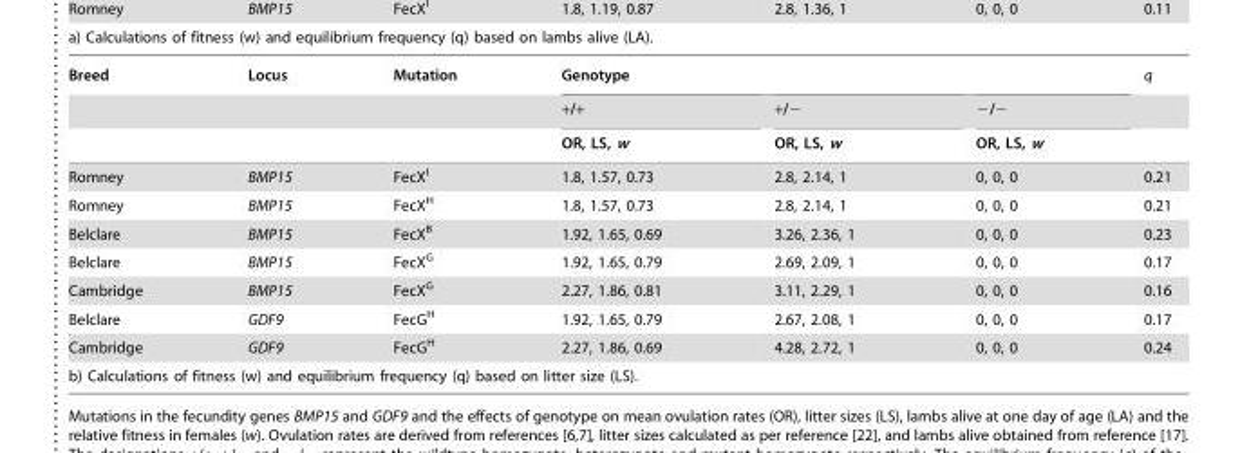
<table><thead><tr><td rowspan="3">Breed</td><td rowspan="3">Locus</td><td rowspan="3">Mutation</td><td colspan="3">Genotype</td><td rowspan="3">q</td></tr><tr><td rowspan="2">+/+ OR, LS, w</td><td rowspan="2">+/− OR, LS, w</td><td rowspan="2">−/− OR, LS, w</td></tr><tr></tr></thead><tbody><tr><td>Romney</td><td>BMP15</td><td>FecX<sup>I</sup></td><td>1.8, 1.57, 0.73</td><td>2.8, 2.14, 1</td><td>0, 0, 0</td><td>0.21</td></tr><tr><td>Romney</td><td>BMP15</td><td>FecX<sup>H</sup></td><td>1.8, 1.57, 0.73</td><td>2.8, 2.14, 1</td><td>0, 0, 0</td><td>0.21</td></tr><tr><td>Belclare</td><td>BMP15</td><td>FecX<sup>B</sup></td><td>1.92, 1.65, 0.69</td><td>3.26, 2.36, 1</td><td>0, 0, 0</td><td>0.23</td></tr><tr><td>Belclare</td><td>BMP15</td><td>FecX<sup>G</sup></td><td>1.92, 1.65, 0.79</td><td>2.69, 2.09, 1</td><td>0, 0, 0</td><td>0.17</td></tr><tr><td>Cambridge</td><td>BMP15</td><td>FecX<sup>G</sup></td><td>2.27, 1.86, 0.81</td><td>3.11, 2.29, 1</td><td>0, 0, 0</td><td>0.16</td></tr><tr><td>Belclare</td><td>GDF9</td><td>FecG<sup>H</sup></td><td>1.92, 1.65, 0.79</td><td>2.67, 2.08, 1</td><td>0, 0, 0</td><td>0.17</td></tr><tr><td>Cambridge</td><td>GDF9</td><td>FecG<sup>H</sup></td><td>2.27, 1.86, 0.69</td><td>4.28, 2.72, 1</td><td>0, 0, 0</td><td>0.24</td></tr><tr><td colspan="7">b) Calculations of fitness (w) and equilibrium frequency (q) based on litter size (LS).</td></tr></tbody></table>